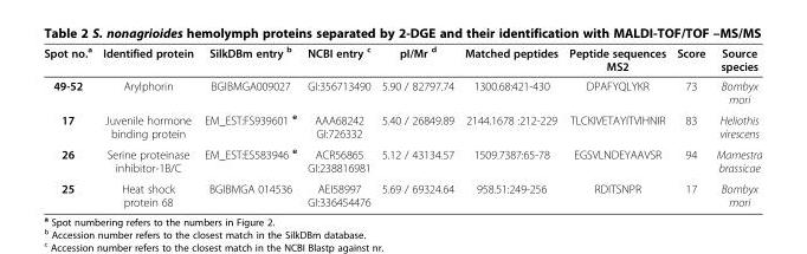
<table><thead><tr><td>Spot no.<sup>a</sup></td><td>Identified protein</td><td>SilkDBm entry <sup>b</sup></td><td>NCBI entry <sup>c</sup></td><td>pI/Mr <sup>d</sup></td><td>Matched peptides</td><td>Peptide sequences MS2</td><td>Score</td><td>Source species</td></tr></thead><tbody><tr><td>49-52</td><td>Arylphorin</td><td>BGIBMGA009027</td><td>GI:356713490</td><td>5.90 / 82797.74</td><td>1300.68:421-430</td><td>DPAFYQLYKR</td><td>73</td><td>Bombyx mori</td></tr><tr><td>17</td><td>Juvenile hormone binding protein</td><td>EM_EST:FS939601 <sup>e</sup></td><td>AAA68242 GI:726332</td><td>5.40 / 26849.89</td><td>2144.1678 :212-229</td><td>TLCKIVETAYITVIHNIR</td><td>83</td><td>Heliothis virescens</td></tr><tr><td>26</td><td>Serine proteinase inhibitor-1B/C</td><td>EM_EST:ES583946 <sup>e</sup></td><td>ACR56865 GI:238816981</td><td>5.12 / 43134.57</td><td>1509.7387:65-78</td><td>EGSVLNDEYAAVSR</td><td>94</td><td>Mamestra brassicae</td></tr><tr><td>25</td><td>Heat shock protein 68</td><td>BGIBMGA 014536</td><td>AEI58997 GI:336454476</td><td>5.69 / 69324.64</td><td>958.51:249-256</td><td>RDITSNPR</td><td>17</td><td>Bombyx mori</td></tr></tbody></table>